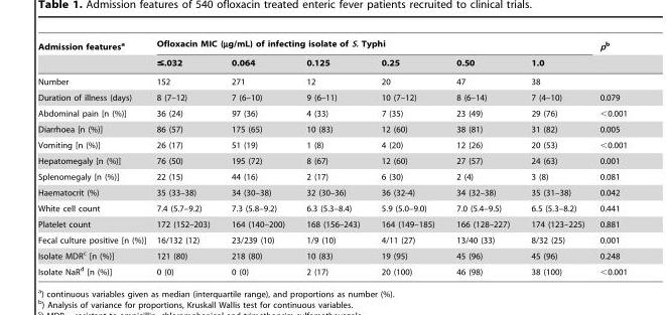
<table><thead><tr><td rowspan="2">Admission features<sup>a</sup></td><td colspan="6">Ofloxacin MIC (µg/mL) of infecting isolate of S. Typhi</td><td rowspan="2">pb</td></tr><tr><td>≤.032</td><td>0.064</td><td>0.125</td><td>0.25</td><td>0.50</td><td>1.0</td></tr></thead><tbody><tr><td>Number</td><td>152</td><td>271</td><td>12</td><td>20</td><td>47</td><td>38</td><td></td></tr><tr><td>Duration of illness (days)</td><td>8 (7–12)</td><td>7 (6–10)</td><td>9 (6–11)</td><td>10 (7–12)</td><td>8 (6–14)</td><td>7 (4–10)</td><td>0.079</td></tr><tr><td>Abdominal pain [n (%)]</td><td>36 (24)</td><td>97 (36)</td><td>4 (33)</td><td>7 (35)</td><td>23 (49)</td><td>29 (76)</td><td>&lt;0.001</td></tr><tr><td>Diarrhoea [n (%)]</td><td>86 (57)</td><td>175 (65)</td><td>10 (83)</td><td>12 (60)</td><td>38 (81)</td><td>31 (82)</td><td>0.005</td></tr><tr><td>Vomiting [n (%)]</td><td>26 (17)</td><td>51 (19)</td><td>1 (8)</td><td>4 (20)</td><td>12 (26)</td><td>20 (53)</td><td>&lt;0.001</td></tr><tr><td>Hepatomegaly [n (%)]</td><td>76 (50)</td><td>195 (72)</td><td>8 (67)</td><td>12 (60)</td><td>27 (57)</td><td>24 (63)</td><td>0.001</td></tr><tr><td>Splenomegaly [n (%)]</td><td>22 (15)</td><td>44 (16)</td><td>2 (17)</td><td>6 (30)</td><td>2 (4)</td><td>3 (8)</td><td>0.081</td></tr><tr><td>Haematocrit (%)</td><td>35 (33–38)</td><td>34 (30–38)</td><td>32 (30–36)</td><td>36 (32-4)</td><td>34 (32–38)</td><td>35 (31–38)</td><td>0.042</td></tr><tr><td>White cell count</td><td>7.4 (5.7–9.2)</td><td>7.3 (5.8–9.2)</td><td>6.3 (5.3–8.4)</td><td>5.9 (5.0–9.0)</td><td>7.0 (5.4–9.5)</td><td>6.5 (5.3–8.2)</td><td>0.441</td></tr><tr><td>Platelet count</td><td>172 (152–203)</td><td>164 (140–200)</td><td>168 (156–243)</td><td>164 (149–185)</td><td>166 (128–227)</td><td>174 (123–225)</td><td>0.881</td></tr><tr><td>Fecal culture positive [n (%)]</td><td>16/132 (12)</td><td>23/239 (10)</td><td>1/9 (10)</td><td>4/11 (27)</td><td>13/40 (33)</td><td>8/32 (25)</td><td>0.001</td></tr><tr><td>Isolate MDR<sup>c</sup> [n (%)]</td><td>121 (80)</td><td>218 (80)</td><td>10 (83)</td><td>19 (95)</td><td>45 (96)</td><td>45 (96)</td><td>0.248</td></tr><tr><td>Isolate NaR<sup>d</sup> [n (%)]</td><td>0 (0)</td><td>0 (0)</td><td>2 (17)</td><td>20 (100)</td><td>46 (98)</td><td>38 (100)</td><td>&lt;0.001</td></tr></tbody></table>